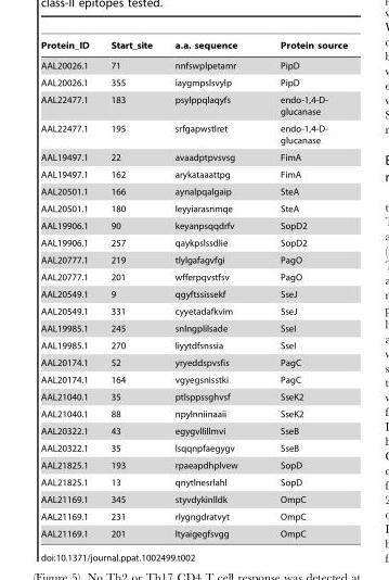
<table><thead><tr><td>Protein_ID</td><td>Start_site</td><td>a.a. sequence</td><td>Protein source</td></tr></thead><tbody><tr><td>AAL20026.1</td><td>71</td><td>nnfswplpetamr</td><td>PipD</td></tr><tr><td>AAL20026.1</td><td>355</td><td>iaygmpslsvylp</td><td>PipD</td></tr><tr><td>AAL22477.1</td><td>183</td><td>psylppqlaqyfs</td><td>endo-1,4-D- glucanase</td></tr><tr><td>AAL22477.1</td><td>195</td><td>srfgapwstlret</td><td>endo-1,4-D- glucanase</td></tr><tr><td>AAL19497.1</td><td>22</td><td>avaadptpvsvsg</td><td>FimA</td></tr><tr><td>AAL19497.1</td><td>162</td><td>arykataaattpg</td><td>FimA</td></tr><tr><td>AAL20501.1</td><td>166</td><td>aynalpqalgaip</td><td>SteA</td></tr><tr><td>AAL20501.1</td><td>180</td><td>leyyiarasnmqe</td><td>SteA</td></tr><tr><td>AAL19906.1</td><td>90</td><td>keyanpsqqdrfv</td><td>SopD2</td></tr><tr><td>AAL19906.1</td><td>257</td><td>qaykpslssdlie</td><td>SopD2</td></tr><tr><td>AAL20777.1</td><td>219</td><td>tlylgafagvfgi</td><td>PagO</td></tr><tr><td>AAL20777.1</td><td>201</td><td>wfferpqvstfsv</td><td>PagO</td></tr><tr><td>AAL20549.1</td><td>9</td><td>qgyftssissekf</td><td>SseJ</td></tr><tr><td>AAL20549.1</td><td>331</td><td>cyyetadafkvim</td><td>SseJ</td></tr><tr><td>AAL19985.1</td><td>245</td><td>snlngplilsade</td><td>SseI</td></tr><tr><td>AAL19985.1</td><td>270</td><td>liyytdfsnssia</td><td>SseI</td></tr><tr><td>AAL20174.1</td><td>52</td><td>yryeddspvsfis</td><td>PagC</td></tr><tr><td>AAL20174.1</td><td>164</td><td>vgyegsnisstki</td><td>PagC</td></tr><tr><td>AAL21040.1</td><td>35</td><td>ptlsppssghvsf</td><td>SseK2</td></tr><tr><td>AAL21040.1</td><td>88</td><td>npylnniinaaii</td><td>SseK2</td></tr><tr><td>AAL20322.1</td><td>43</td><td>egygvllillmvi</td><td>SseB</td></tr><tr><td>AAL20322.1</td><td>35</td><td>lsqqnpfaegygv</td><td>SseB</td></tr><tr><td>AAL21825.1</td><td>193</td><td>rpaeapdhplvew</td><td>SopD</td></tr><tr><td>AAL21825.1</td><td>13</td><td>qnytlnesrlahl</td><td>SopD</td></tr><tr><td>AAL21169.1</td><td>345</td><td>styvdykinlldk</td><td>OmpC</td></tr><tr><td>AAL21169.1</td><td>231</td><td>rlygngdratvyt</td><td>OmpC</td></tr><tr><td>AAL21169.1</td><td>201</td><td>ltyaigegfsvgg</td><td>OmpC</td></tr></tbody></table>